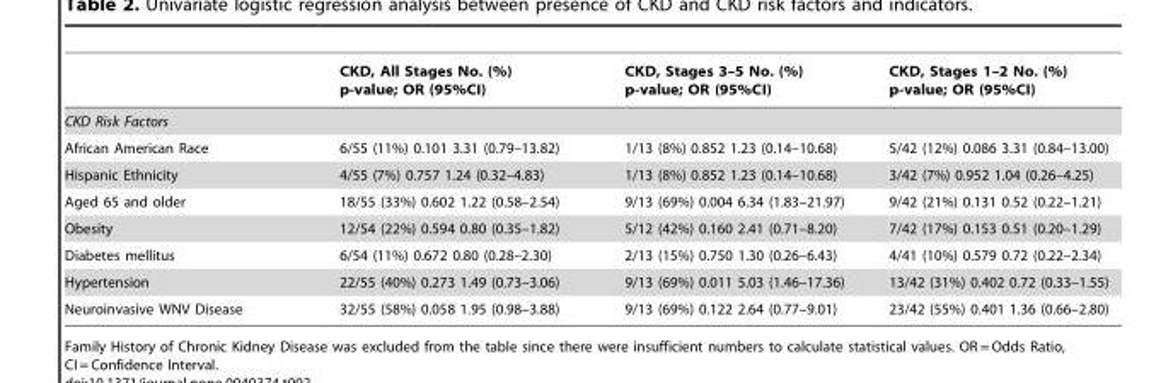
<table><thead><tr><td></td><td>CKD, All Stages No. (%) p-value; OR (95%CI)</td><td>CKD, Stages 3–5 No. (%) p-value; OR (95%CI)</td><td>CKD, Stages 1–2 No. (%) p-value; OR (95%CI)</td></tr></thead><tbody><tr><td colspan="4">CKD Risk Factors</td></tr><tr><td>African American Race</td><td>6/55 (11%) 0.101 3.31 (0.79–13.82)</td><td>1/13 (8%) 0.852 1.23 (0.14–10.68)</td><td>5/42 (12%) 0.086 3.31 (0.84–13.00)</td></tr><tr><td>Hispanic Ethnicity</td><td>4/55 (7%) 0.757 1.24 (0.32–4.83)</td><td>1/13 (8%) 0.852 1.23 (0.14–10.68)</td><td>3/42 (7%) 0.952 1.04 (0.26–4.25)</td></tr><tr><td>Aged 65 and older</td><td>18/55 (33%) 0.602 1.22 (0.58–2.54)</td><td>9/13 (69%) 0.004 6.34 (1.83–21.97)</td><td>9/42 (21%) 0.131 0.52 (0.22–1.21)</td></tr><tr><td>Obesity</td><td>12/54 (22%) 0.594 0.80 (0.35–1.82)</td><td>5/12 (42%) 0.160 2.41 (0.71–8.20)</td><td>7/42 (17%) 0.153 0.51 (0.20–1.29)</td></tr><tr><td>Diabetes mellitus</td><td>6/54 (11%) 0.672 0.80 (0.28–2.30)</td><td>2/13 (15%) 0.750 1.30 (0.26–6.43)</td><td>4/41 (10%) 0.579 0.72 (0.22–2.34)</td></tr><tr><td>Hypertension</td><td>22/55 (40%) 0.273 1.49 (0.73–3.06)</td><td>9/13 (69%) 0.011 5.03 (1.46–17.36)</td><td>13/42 (31%) 0.402 0.72 (0.33–1.55)</td></tr><tr><td>Neuroinvasive WNV Disease</td><td>32/55 (58%) 0.058 1.95 (0.98–3.88)</td><td>9/13 (69%) 0.122 2.64 (0.77–9.01)</td><td>23/42 (55%) 0.401 1.36 (0.66–2.80)</td></tr></tbody></table>